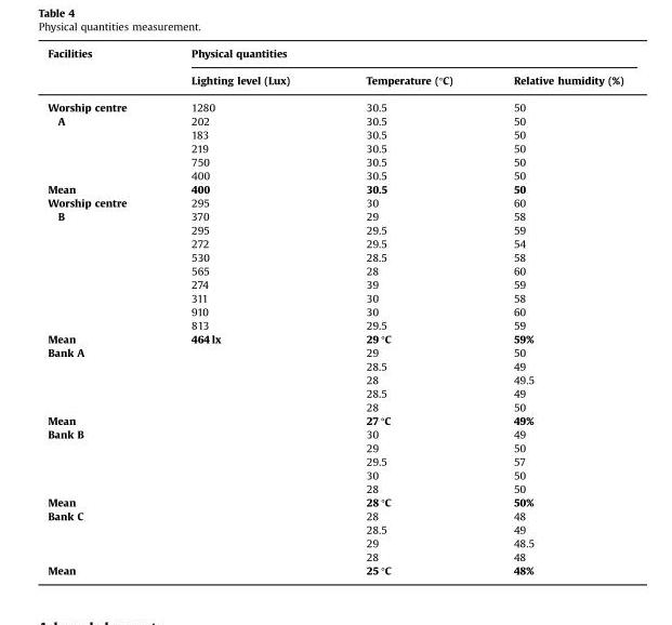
<table><thead><tr><td rowspan="2">Facilities</td><td colspan="3">Physical quantities</td></tr><tr><td>Lighting level (Lux)</td><td>Temperature (°C)</td><td>Relative humidity (%)</td></tr></thead><tbody><tr><td rowspan="6">Worship centre A</td><td>1280</td><td>30.5</td><td>50</td></tr><tr><td>202</td><td>30.5</td><td>50</td></tr><tr><td>183</td><td>30.5</td><td>50</td></tr><tr><td>219</td><td>30.5</td><td>50</td></tr><tr><td>750</td><td>30.5</td><td>50</td></tr><tr><td>400</td><td>30.5</td><td>50</td></tr><tr><td>Mean</td><td>400</td><td>30.5</td><td>50</td></tr><tr><td rowspan="10">Worship centre B</td><td>295</td><td>30</td><td>60</td></tr><tr><td>370</td><td>29</td><td>58</td></tr><tr><td>295</td><td>29.5</td><td>59</td></tr><tr><td>272</td><td>29.5</td><td>54</td></tr><tr><td>530</td><td>28.5</td><td>58</td></tr><tr><td>565</td><td>28</td><td>60</td></tr><tr><td>274</td><td>39</td><td>59</td></tr><tr><td>311</td><td>30</td><td>58</td></tr><tr><td>910</td><td>30</td><td>60</td></tr><tr><td>813</td><td>29.5</td><td>59</td></tr><tr><td>Mean</td><td>464 lx</td><td>29 °C</td><td>59%</td></tr><tr><td rowspan="5">Bank A</td><td></td><td>29</td><td>50</td></tr><tr><td></td><td>28.5</td><td>49</td></tr><tr><td></td><td>28</td><td>49.5</td></tr><tr><td></td><td>28.5</td><td>49</td></tr><tr><td></td><td>28</td><td>50</td></tr><tr><td>Mean</td><td></td><td>27 °C</td><td>49%</td></tr><tr><td rowspan="5">Bank B</td><td></td><td>30</td><td>49</td></tr><tr><td></td><td>29</td><td>50</td></tr><tr><td></td><td>29.5</td><td>57</td></tr><tr><td></td><td>30</td><td>50</td></tr><tr><td></td><td>28</td><td>50</td></tr><tr><td>Mean</td><td></td><td>28 °C</td><td>50%</td></tr><tr><td rowspan="4">Bank C</td><td></td><td>28</td><td>48</td></tr><tr><td></td><td>28.5</td><td>49</td></tr><tr><td></td><td>29</td><td>48.5</td></tr><tr><td></td><td>28</td><td>48</td></tr><tr><td>Mean</td><td></td><td>25 °C</td><td>48%</td></tr></tbody></table>